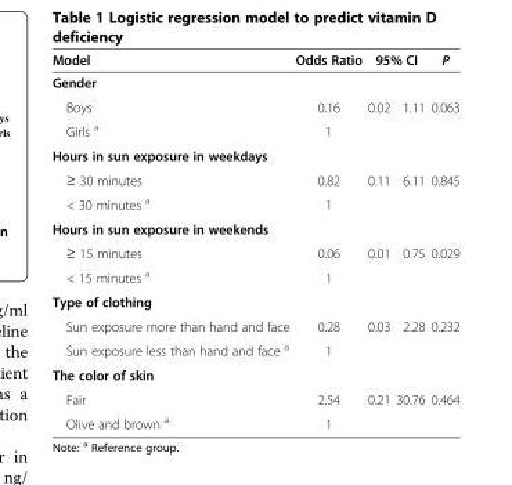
<table><thead><tr><td>Model</td><td>Odds Ratio</td><td colspan="2">95% CI</td><td>P</td></tr><tr><td colspan="5">Gender</td></tr><tr><td>Boys</td><td>0.16</td><td>0.02</td><td>1.11</td><td>0.063</td></tr></thead><tbody><tr><td>Girls <sup>a</sup></td><td>1</td><td></td><td></td><td></td></tr><tr><td colspan="5">Hours in sun exposure in weekdays</td></tr><tr><td>≥ 30 minutes</td><td>0.82</td><td>0.11</td><td>6.11</td><td>0.845</td></tr><tr><td>&lt; 30 minutes <sup>a</sup></td><td>1</td><td></td><td></td><td></td></tr><tr><td colspan="5">Hours in sun exposure in weekends</td></tr><tr><td>≥ 15 minutes</td><td>0.06</td><td>0.01</td><td>0.75</td><td>0.029</td></tr><tr><td>&lt; 15 minutes <sup>a</sup></td><td>1</td><td></td><td></td><td></td></tr><tr><td colspan="5">Type of clothing</td></tr><tr><td>Sun exposure more than hand and face</td><td>0.28</td><td>0.03</td><td>2.28</td><td>0.232</td></tr><tr><td>Sun exposure less than hand and face <sup>a</sup></td><td>1</td><td></td><td></td><td></td></tr><tr><td colspan="5">The color of skin</td></tr><tr><td>Fair</td><td>2.54</td><td>0.21</td><td>30.76</td><td>0.464</td></tr><tr><td>Olive and brown <sup>a</sup></td><td>1</td><td></td><td></td><td></td></tr></tbody></table>